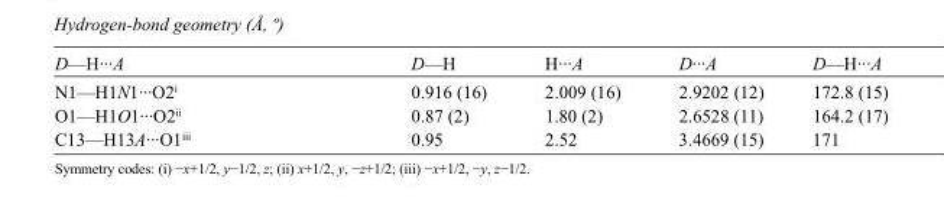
<table><tbody><tr><td>D—H···A</td><td>D—H</td><td>H···A</td><td>D···A</td><td>D—H···A</td></tr><tr><td>N1—H1N1···O2<sup>i</sup></td><td>0.916 (16)</td><td>2.009 (16)</td><td>2.9202 (12)</td><td>172.8 (15)</td></tr><tr><td>O1—H1O1···O2<sup>ii</sup></td><td>0.87 (2)</td><td>1.80 (2)</td><td>2.6528 (11)</td><td>164.2 (17)</td></tr><tr><td>C13—H13A···O1<sup>iii</sup></td><td>0.95</td><td>2.52</td><td>3.4669 (15)</td><td>171</td></tr></tbody></table>